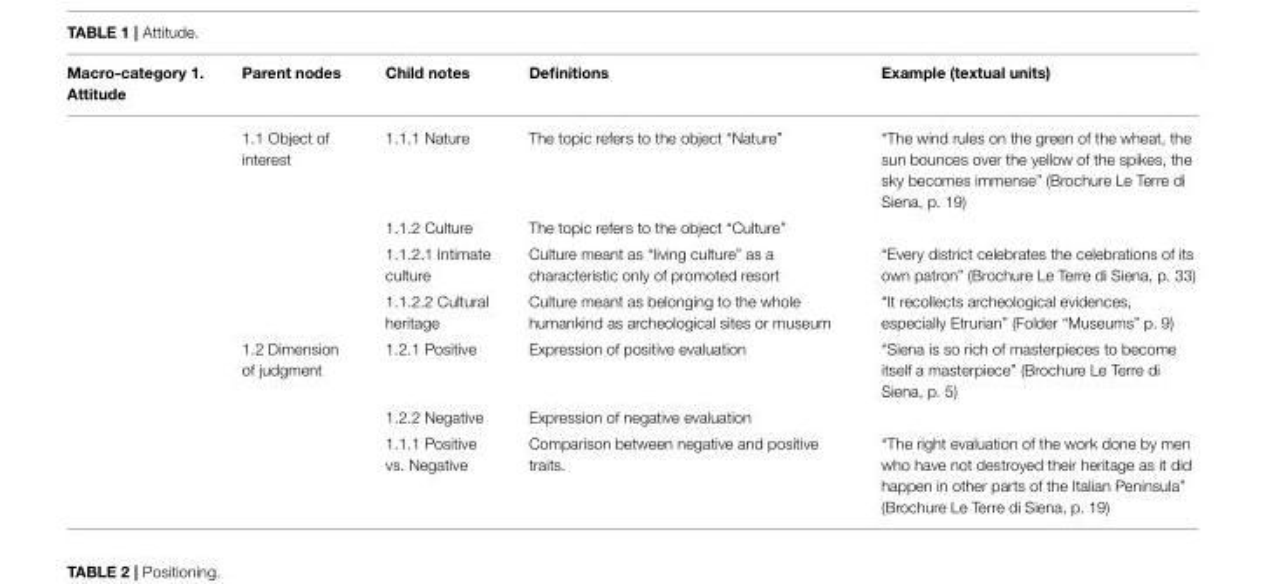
<table><thead><tr><td>Macro-category 1. Attitude</td><td>Parent nodes</td><td>Child notes</td><td>Definitions</td><td>Example (textual units)</td></tr></thead><tbody><tr><td></td><td>1.1 Object of interest</td><td>1.1.1 Nature</td><td>The topic refers to the object “Nature”</td><td>“The wind rules on the green of the wheat, the sun bounces over the yellow of the spikes, the sky becomes immense” (Brochure Le Terre di Siena, p. 19)</td></tr><tr><td></td><td></td><td>1.1.2 Culture</td><td>The topic refers to the object “Culture”</td><td></td></tr><tr><td></td><td></td><td>1.1.2.1 Intimate culture</td><td>Culture meant as “living culture” as a characteristic only of promoted resort</td><td>“Every district celebrates the celebrations of its own patron” (Brochure Le Terre di Siena, p. 33)</td></tr><tr><td></td><td></td><td>1.1.2.2 Cultural heritage</td><td>Culture meant as belonging to the whole humankind as archeological sites or museum</td><td>“It recollects archeological evidences, especially Etrurian” (Folder “Museums” p. 9)</td></tr><tr><td></td><td>1.2 Dimension of judgment</td><td>1.2.1 Positive</td><td>Expression of positive evaluation</td><td>“Siena is so rich of masterpieces to become itself a masterpiece” (Brochure Le Terre di Siena, p. 5)</td></tr><tr><td></td><td></td><td>1.2.2 Negative</td><td>Expression of negative evaluation</td><td></td></tr><tr><td></td><td></td><td>1.1.1 Positive vs. Negative</td><td>Comparison between negative and positive traits.</td><td>“The right evaluation of the work done by men who have not destroyed their heritage as it did happen in other parts of the Italian Peninsula” (Brochure Le Terre di Siena, p. 19)</td></tr></tbody></table>